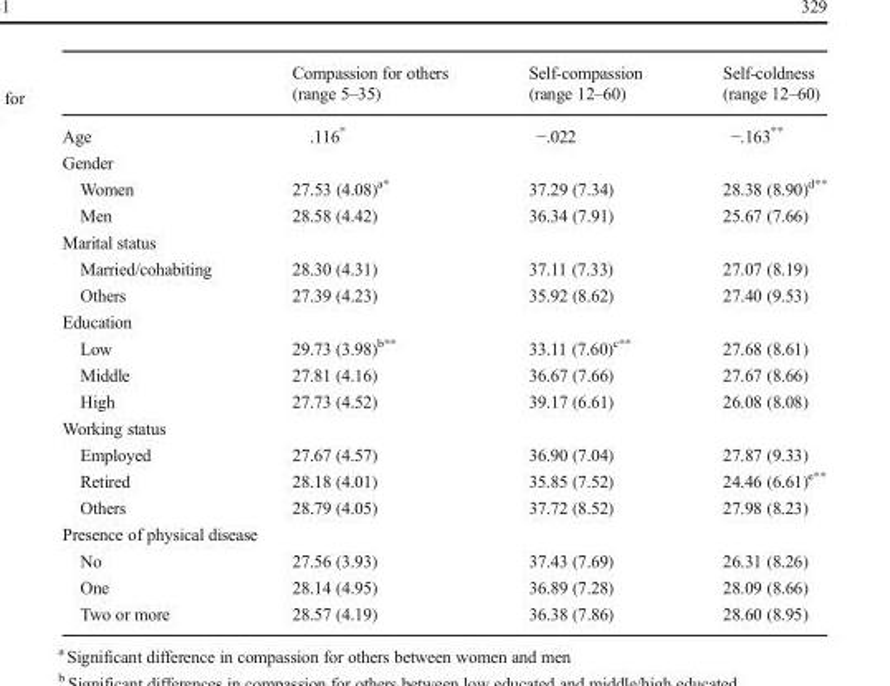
<table><thead><tr><td></td><td>Compassion for others (range 5–35)</td><td>Self-compassion (range 12–60)</td><td>Self-coldness (range 12–60)</td></tr></thead><tbody><tr><td>Age</td><td>.116*</td><td>−.022</td><td>−.163**</td></tr><tr><td colspan="4">Gender</td></tr><tr><td>Women</td><td>27.53 (4.08)<sup>a*</sup></td><td>37.29 (7.34)</td><td>28.38 (8.90)<sup>d**</sup></td></tr><tr><td>Men</td><td>28.58 (4.42)</td><td>36.34 (7.91)</td><td>25.67 (7.66)</td></tr><tr><td colspan="4">Marital status</td></tr><tr><td>Married/cohabiting</td><td>28.30 (4.31)</td><td>37.11 (7.33)</td><td>27.07 (8.19)</td></tr><tr><td>Others</td><td>27.39 (4.23)</td><td>35.92 (8.62)</td><td>27.40 (9.53)</td></tr><tr><td colspan="4">Education</td></tr><tr><td>Low</td><td>29.73 (3.98)<sup>b**</sup></td><td>33.11 (7.60)<sup>c**</sup></td><td>27.68 (8.61)</td></tr><tr><td>Middle</td><td>27.81 (4.16)</td><td>36.67 (7.66)</td><td>27.67 (8.66)</td></tr><tr><td>High</td><td>27.73 (4.52)</td><td>39.17 (6.61)</td><td>26.08 (8.08)</td></tr><tr><td colspan="4">Working status</td></tr><tr><td>Employed</td><td>27.67 (4.57)</td><td>36.90 (7.04)</td><td>27.87 (9.33)</td></tr><tr><td>Retired</td><td>28.18 (4.01)</td><td>35.85 (7.52)</td><td>24.46 (6.61)<sup>e**</sup></td></tr><tr><td>Others</td><td>28.79 (4.05)</td><td>37.72 (8.52)</td><td>27.98 (8.23)</td></tr><tr><td colspan="4">Presence of physical disease</td></tr><tr><td>No</td><td>27.56 (3.93)</td><td>37.43 (7.69)</td><td>26.31 (8.26)</td></tr><tr><td>One</td><td>28.14 (4.95)</td><td>36.89 (7.28)</td><td>28.09 (8.66)</td></tr><tr><td>Two or more</td><td>28.57 (4.19)</td><td>36.38 (7.86)</td><td>28.60 (8.95)</td></tr></tbody></table>